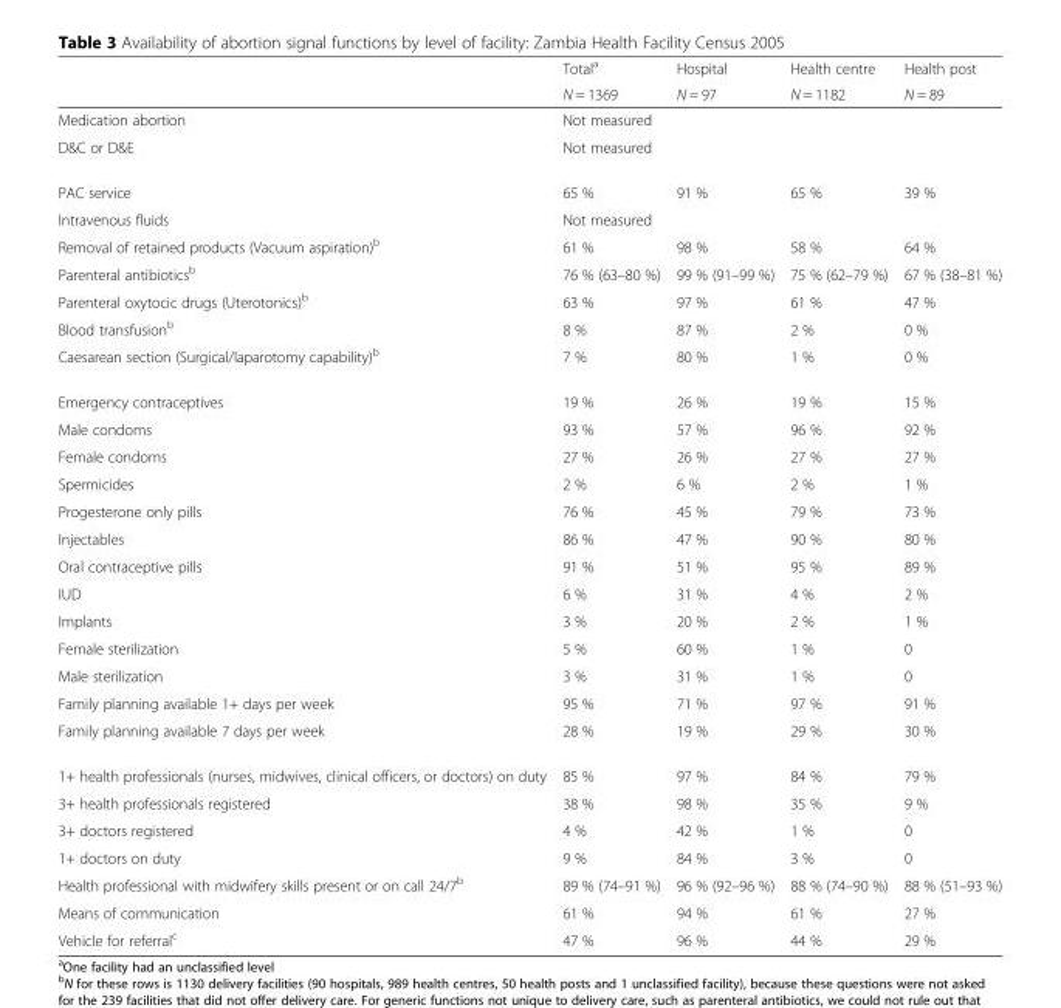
<table><thead><tr><td rowspan="2"></td><td rowspan="2">Total<sup>a</sup> N = 1369</td><td rowspan="2">Hospital N = 97</td><td rowspan="2">Health centre N = 1182</td><td rowspan="2">Health post N = 89</td></tr><tr></tr></thead><tbody><tr><td>Medication abortion</td><td colspan="4">Not measured</td></tr><tr><td>D&amp;C or D&amp;E</td><td colspan="4">Not measured</td></tr><tr><td>PAC service</td><td>65 %</td><td>91 %</td><td>65 %</td><td>39 %</td></tr><tr><td>Intravenous fluids</td><td colspan="4">Not measured</td></tr><tr><td>Removal of retained products (Vacuum aspiration)<sup>b</sup></td><td>61 %</td><td>98 %</td><td>58 %</td><td>64 %</td></tr><tr><td>Parenteral antibiotics<sup>b</sup></td><td>76 % (63–80 %)</td><td>99 % (91–99 %)</td><td>75 % (62–79 %)</td><td>67 % (38–81 %)</td></tr><tr><td>Parenteral oxytocic drugs (Uterotonics)<sup>b</sup></td><td>63 %</td><td>97 %</td><td>61 %</td><td>47 %</td></tr><tr><td>Blood transfusion<sup>b</sup></td><td>8 %</td><td>87 %</td><td>2 %</td><td>0 %</td></tr><tr><td>Caesarean section (Surgical/laparotomy capability)<sup>b</sup></td><td>7 %</td><td>80 %</td><td>1 %</td><td>0 %</td></tr><tr><td>Emergency contraceptives</td><td>19 %</td><td>26 %</td><td>19 %</td><td>15 %</td></tr><tr><td>Male condoms</td><td>93 %</td><td>57 %</td><td>96 %</td><td>92 %</td></tr><tr><td>Female condoms</td><td>27 %</td><td>26 %</td><td>27 %</td><td>27 %</td></tr><tr><td>Spermicides</td><td>2 %</td><td>6 %</td><td>2 %</td><td>1 %</td></tr><tr><td>Progesterone only pills</td><td>76 %</td><td>45 %</td><td>79 %</td><td>73 %</td></tr><tr><td>Injectables</td><td>86 %</td><td>47 %</td><td>90 %</td><td>80 %</td></tr><tr><td>Oral contraceptive pills</td><td>91 %</td><td>51 %</td><td>95 %</td><td>89 %</td></tr><tr><td>IUD</td><td>6 %</td><td>31 %</td><td>4 %</td><td>2 %</td></tr><tr><td>Implants</td><td>3 %</td><td>20 %</td><td>2 %</td><td>1 %</td></tr><tr><td>Female sterilization</td><td>5 %</td><td>60 %</td><td>1 %</td><td>0</td></tr><tr><td>Male sterilization</td><td>3 %</td><td>31 %</td><td>1 %</td><td>0</td></tr><tr><td>Family planning available 1+ days per week</td><td>95 %</td><td>71 %</td><td>97 %</td><td>91 %</td></tr><tr><td>Family planning available 7 days per week</td><td>28 %</td><td>19 %</td><td>29 %</td><td>30 %</td></tr><tr><td>1+ health professionals (nurses, midwives, clinical officers, or doctors) on duty</td><td>85 %</td><td>97 %</td><td>84 %</td><td>79 %</td></tr><tr><td>3+ health professionals registered</td><td>38 %</td><td>98 %</td><td>35 %</td><td>9 %</td></tr><tr><td>3+ doctors registered</td><td>4 %</td><td>42 %</td><td>1 %</td><td>0</td></tr><tr><td>1+ doctors on duty</td><td>9 %</td><td>84 %</td><td>3 %</td><td>0</td></tr><tr><td>Health professional with midwifery skills present or on call 24/7<sup>b</sup></td><td>89 % (74–91 %)</td><td>96 % (92–96 %)</td><td>88 % (74–90 %)</td><td>88 % (51–93 %)</td></tr><tr><td>Means of communication</td><td>61 %</td><td>94 %</td><td>61 %</td><td>27 %</td></tr><tr><td>Vehicle for referral<sup>c</sup></td><td>47 %</td><td>96 %</td><td>44 %</td><td>29 %</td></tr></tbody></table>